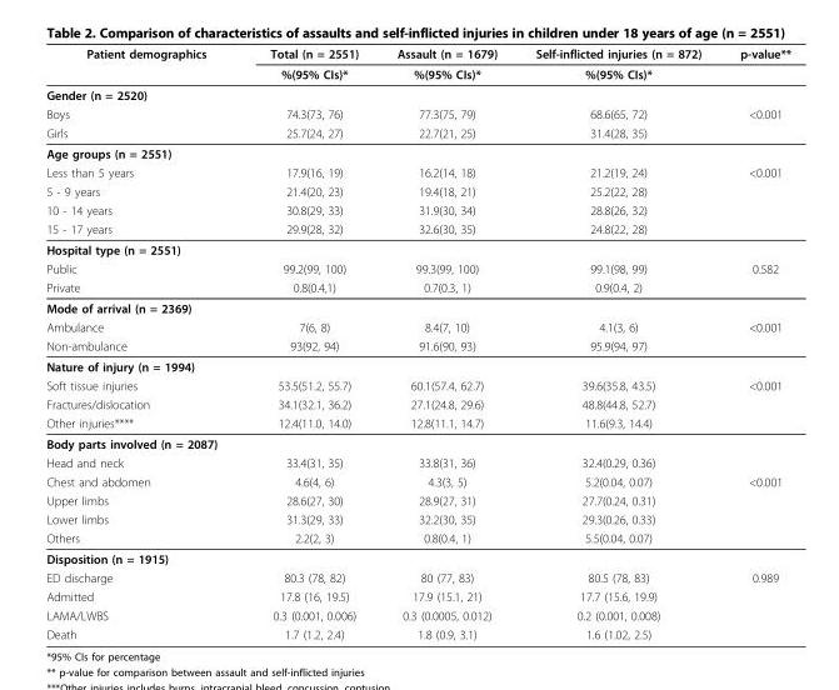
<table><thead><tr><td rowspan="2">Patient demographics</td><td rowspan="2">Total (n = 2551) %(95% CIs)*</td><td rowspan="2">Assault (n = 1679) %(95% CIs)*</td><td rowspan="2">Self-inflicted injuries (n = 872) %(95% CIs)*</td><td rowspan="2">p-value**</td></tr><tr></tr></thead><tbody><tr><td colspan="5">Gender (n = 2520)</td></tr><tr><td>Boys</td><td>74.3(73, 76)</td><td>77.3(75, 79)</td><td>68.6(65, 72)</td><td>&lt;0.001</td></tr><tr><td>Girls</td><td>25.7(24, 27)</td><td>22.7(21, 25)</td><td>31.4(28, 35)</td><td></td></tr><tr><td colspan="5">Age groups (n = 2551)</td></tr><tr><td>Less than 5 years</td><td>17.9(16, 19)</td><td>16.2(14, 18)</td><td>21.2(19, 24)</td><td>&lt;0.001</td></tr><tr><td>5 - 9 years</td><td>21.4(20, 23)</td><td>19.4(18, 21)</td><td>25.2(22, 28)</td><td></td></tr><tr><td>10 - 14 years</td><td>30.8(29, 33)</td><td>31.9(30, 34)</td><td>28.8(26, 32)</td><td></td></tr><tr><td>15 - 17 years</td><td>29.9(28, 32)</td><td>32.6(30, 35)</td><td>24.8(22, 28)</td><td></td></tr><tr><td colspan="5">Hospital type (n = 2551)</td></tr><tr><td>Public</td><td>99.2(99, 100)</td><td>99.3(99, 100)</td><td>99.1(98, 99)</td><td>0.582</td></tr><tr><td>Private</td><td>0.8(0.4,1)</td><td>0.7(0.3, 1)</td><td>0.9(0.4, 2)</td><td></td></tr><tr><td colspan="5">Mode of arrival (n = 2369)</td></tr><tr><td>Ambulance</td><td>7(6, 8)</td><td>8.4(7, 10)</td><td>4.1(3, 6)</td><td>&lt;0.001</td></tr><tr><td>Non-ambulance</td><td>93(92, 94)</td><td>91.6(90, 93)</td><td>95.9(94, 97)</td><td></td></tr><tr><td colspan="5">Nature of injury (n = 1994)</td></tr><tr><td>Soft tissue injuries</td><td>53.5(51.2, 55.7)</td><td>60.1(57.4, 62.7)</td><td>39.6(35.8, 43.5)</td><td>&lt;0.001</td></tr><tr><td>Fractures/dislocation</td><td>34.1(32.1, 36.2)</td><td>27.1(24.8, 29.6)</td><td>48.8(44.8, 52.7)</td><td></td></tr><tr><td>Other injuries****</td><td>12.4(11.0, 14.0)</td><td>12.8(11.1, 14.7)</td><td>11.6(9.3, 14.4)</td><td></td></tr><tr><td colspan="5">Body parts involved (n = 2087)</td></tr><tr><td>Head and neck</td><td>33.4(31, 35)</td><td>33.8(31, 36)</td><td>32.4(0.29, 0.36)</td><td></td></tr><tr><td>Chest and abdomen</td><td>4.6(4, 6)</td><td>4.3(3, 5)</td><td>5.2(0.04, 0.07)</td><td>&lt;0.001</td></tr><tr><td>Upper limbs</td><td>28.6(27, 30)</td><td>28.9(27, 31)</td><td>27.7(0.24, 0.31)</td><td></td></tr><tr><td>Lower limbs</td><td>31.3(29, 33)</td><td>32.2(30, 35)</td><td>29.3(0.26, 0.33)</td><td></td></tr><tr><td>Others</td><td>2.2(2, 3)</td><td>0.8(0.4, 1)</td><td>5.5(0.04, 0.07)</td><td></td></tr><tr><td colspan="5">Disposition (n = 1915)</td></tr><tr><td>ED discharge</td><td>80.3 (78, 82)</td><td>80 (77, 83)</td><td>80.5 (78, 83)</td><td>0.989</td></tr><tr><td>Admitted</td><td>17.8 (16, 19.5)</td><td>17.9 (15.1, 21)</td><td>17.7 (15.6, 19.9)</td><td></td></tr><tr><td>LAMA/LWBS</td><td>0.3 (0.001, 0.006)</td><td>0.3 (0.0005, 0.012)</td><td>0.2 (0.001, 0.008)</td><td></td></tr><tr><td>Death</td><td>1.7 (1.2, 2.4)</td><td>1.8 (0.9, 3.1)</td><td>1.6 (1.02, 2.5)</td><td></td></tr></tbody></table>